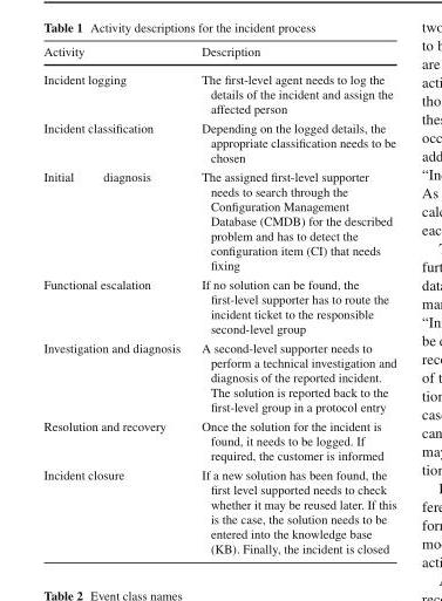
<table><thead><tr><td>Activity</td><td>Description</td></tr></thead><tbody><tr><td>Incident logging</td><td>The first-level agent needs to log the details of the incident and assign the affected person</td></tr><tr><td>Incident classification</td><td>Depending on the logged details, the appropriate classification needs to be chosen</td></tr><tr><td>Initial diagnosis</td><td>The assigned first-level supporter needs to search through the Configuration Management Database (CMDB) for the described problem and has to detect the configuration item (CI) that needs fixing</td></tr><tr><td>Functional escalation</td><td>If no solution can be found, the first-level supporter has to route the incident ticket to the responsible second-level group</td></tr><tr><td>Investigation and diagnosis</td><td>A second-level supporter needs to perform a technical investigation and diagnosis of the reported incident. The solution is reported back to the first-level group in a protocol entry</td></tr><tr><td>Resolution and recovery</td><td>Once the solution for the incident is found, it needs to be logged. If required, the customer is informed</td></tr><tr><td>Incident closure</td><td>If a new solution has been found, the first level supported needs to check whether it may be reused later. If this is the case, the solution needs to be entered into the knowledge base (KB). Finally, the incident is closed</td></tr></tbody></table>